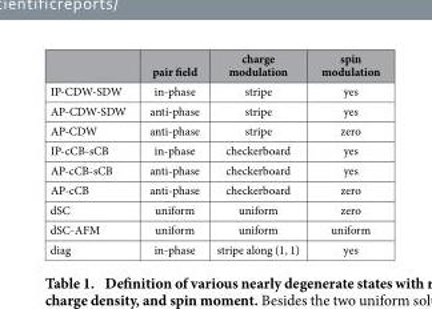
<table><thead><tr><td></td><td>pair field</td><td>charge modulation</td><td>spin modulation</td></tr></thead><tbody><tr><td>IP-CDW-SDW</td><td>in-phase</td><td>stripe</td><td>yes</td></tr><tr><td>AP-CDW-SDW</td><td>anti-phase</td><td>stripe</td><td>yes</td></tr><tr><td>AP-CDW</td><td>anti-phase</td><td>stripe</td><td>zero</td></tr><tr><td>IP-cCB-sCB</td><td>in-phase</td><td>checkerboard</td><td>yes</td></tr><tr><td>AP-cCB-sCB</td><td>anti-phase</td><td>checkerboard</td><td>yes</td></tr><tr><td>AP-cCB</td><td>anti-phase</td><td>checkerboard</td><td>zero</td></tr><tr><td>dSC</td><td>uniform</td><td>uniform</td><td>zero</td></tr><tr><td>dSC-AFM</td><td>uniform</td><td>uniform</td><td>uniform</td></tr><tr><td>diag</td><td>in-phase</td><td>stripe along (1, 1)</td><td>yes</td></tr></tbody></table>